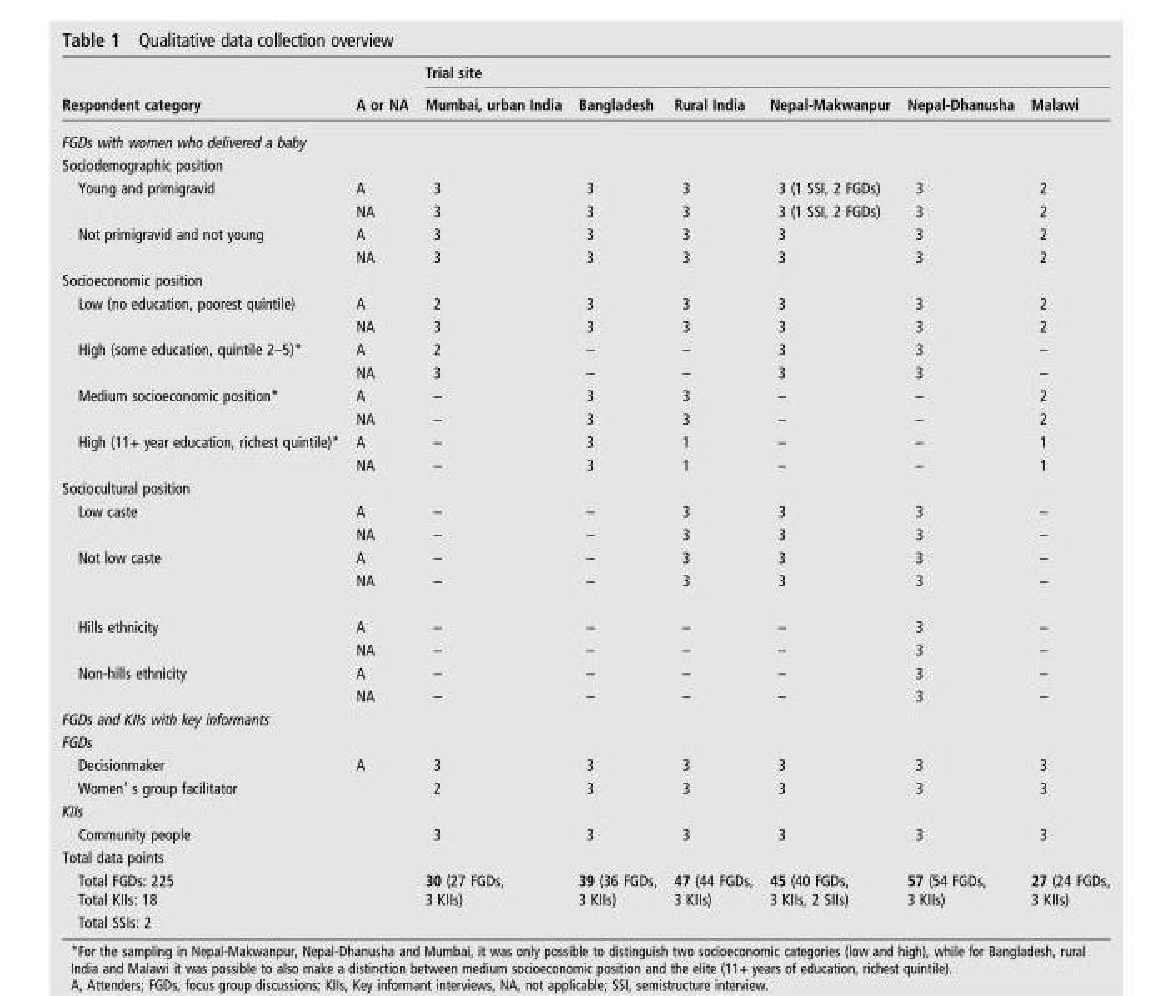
<table><thead><tr><td rowspan="2">Respondent category</td><td rowspan="2">A or NA</td><td colspan="6">Trial site</td></tr><tr><td>Mumbai, urban India</td><td>Bangladesh</td><td>Rural India</td><td>Nepal-Makwanpur</td><td>Nepal-Dhanusha</td><td>Malawi</td></tr></thead><tbody><tr><td colspan="8">FGDs with women who delivered a baby</td></tr><tr><td colspan="8">Sociodemographic position</td></tr><tr><td rowspan="2">Young and primigravid</td><td>A</td><td>3</td><td>3</td><td>3</td><td>3 (1 SSI, 2 FGDs)</td><td>3</td><td>2</td></tr><tr><td>NA</td><td>3</td><td>3</td><td>3</td><td>3 (1 SSI, 2 FGDs)</td><td>3</td><td>2</td></tr><tr><td rowspan="2">Not primigravid and not young</td><td>A</td><td>3</td><td>3</td><td>3</td><td>3</td><td>3</td><td>2</td></tr><tr><td>NA</td><td>3</td><td>3</td><td>3</td><td>3</td><td>3</td><td>2</td></tr><tr><td colspan="8">Socioeconomic position</td></tr><tr><td rowspan="2">Low (no education, poorest quintile)</td><td>A</td><td>2</td><td>3</td><td>3</td><td>3</td><td>3</td><td>2</td></tr><tr><td>NA</td><td>3</td><td>3</td><td>3</td><td>3</td><td>3</td><td>2</td></tr><tr><td rowspan="2">High (some education, quintile 2–5)*</td><td>A</td><td>2</td><td>–</td><td>–</td><td>3</td><td>3</td><td>–</td></tr><tr><td>NA</td><td>3</td><td>–</td><td>–</td><td>3</td><td>3</td><td>–</td></tr><tr><td rowspan="2">Medium socioeconomic position*</td><td>A</td><td>–</td><td>3</td><td>3</td><td>–</td><td>–</td><td>2</td></tr><tr><td>NA</td><td>–</td><td>3</td><td>3</td><td>–</td><td>–</td><td>2</td></tr><tr><td rowspan="2">High (11+ year education, richest quintile)*</td><td>A</td><td>–</td><td>3</td><td>1</td><td>–</td><td>–</td><td>1</td></tr><tr><td>NA</td><td>–</td><td>3</td><td>1</td><td>–</td><td>–</td><td>1</td></tr><tr><td colspan="8">Sociocultural position</td></tr><tr><td rowspan="2">Low caste</td><td>A</td><td>–</td><td>–</td><td>3</td><td>3</td><td>3</td><td>–</td></tr><tr><td>NA</td><td>–</td><td>–</td><td>3</td><td>3</td><td>3</td><td>–</td></tr><tr><td rowspan="2">Not low caste</td><td>A</td><td>–</td><td>–</td><td>3</td><td>3</td><td>3</td><td>–</td></tr><tr><td>NA</td><td>–</td><td>–</td><td>3</td><td>3</td><td>3</td><td>–</td></tr><tr><td rowspan="2">Hills ethnicity</td><td>A</td><td>–</td><td>–</td><td>–</td><td>–</td><td>3</td><td>–</td></tr><tr><td>NA</td><td>–</td><td>–</td><td>–</td><td>–</td><td>3</td><td>–</td></tr><tr><td rowspan="2">Non-hills ethnicity</td><td>A</td><td>–</td><td>–</td><td>–</td><td>–</td><td>3</td><td>–</td></tr><tr><td>NA</td><td>–</td><td>–</td><td>–</td><td>–</td><td>3</td><td>–</td></tr><tr><td colspan="8">FGDs and KIIs with key informants</td></tr><tr><td colspan="8">FGDs</td></tr><tr><td>Decisionmaker</td><td>A</td><td>3</td><td>3</td><td>3</td><td>3</td><td>3</td><td>3</td></tr><tr><td>Women’ s group facilitator</td><td></td><td>2</td><td>3</td><td>3</td><td>3</td><td>3</td><td>3</td></tr><tr><td colspan="8">KIIs</td></tr><tr><td>Community people</td><td></td><td>3</td><td>3</td><td>3</td><td>3</td><td>3</td><td>3</td></tr><tr><td colspan="8">Total data points</td></tr><tr><td>Total FGDs: 225 Total KIIs: 18</td><td></td><td>30 (27 FGDs, 3 KIIs)</td><td>39 (36 FGDs, 3 KIIs)</td><td>47 (44 FGDs, 3 KIIs)</td><td>45 (40 FGDs, 3 KIIs, 2 SIIs)</td><td>57 (54 FGDs, 3 KIIs)</td><td>27 (24 FGDs, 3 KIIs)</td></tr><tr><td>Total SSIs: 2</td><td></td><td></td><td></td><td></td><td></td><td></td><td></td></tr></tbody></table>